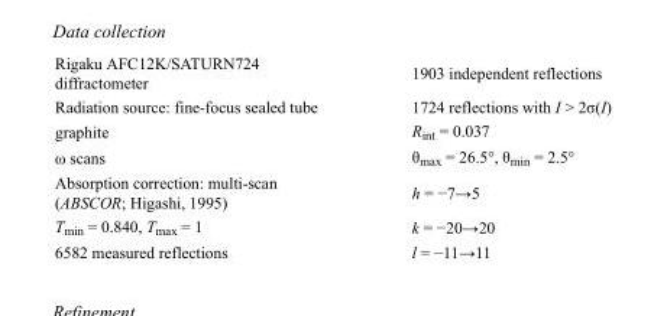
<table><tbody><tr><td>Rigaku AFC12K/SATURN724 diffractometer</td><td>1903 independent reflections</td></tr><tr><td>Radiation source: fine-focus sealed tube</td><td>1724 reflections with I &gt; 2σ(I)</td></tr><tr><td>graphite</td><td>R<sub>int</sub> = 0.037</td></tr><tr><td>ω scans</td><td>θ<sub>max</sub> = 26.5°, θ<sub>min</sub> = 2.5°</td></tr><tr><td>Absorption correction: multi-scan (ABSCOR; Higashi, 1995)</td><td>h = −7→5</td></tr><tr><td>T<sub>min</sub> = 0.840, T<sub>max</sub> = 1</td><td>k = −20→20</td></tr><tr><td>6582 measured reflections</td><td>l = −11→11</td></tr></tbody></table>